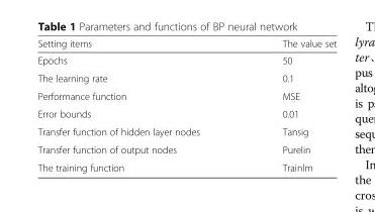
<table><thead><tr><td>Setting items</td><td>The value set</td></tr></thead><tbody><tr><td>Epochs</td><td>50</td></tr><tr><td>The learning rate</td><td>0.1</td></tr><tr><td>Performance function</td><td>MSE</td></tr><tr><td>Error bounds</td><td>0.01</td></tr><tr><td>Transfer function of hidden layer nodes</td><td>Tansig</td></tr><tr><td>Transfer function of output nodes</td><td>Purelin</td></tr><tr><td>The training function</td><td>Trainlm</td></tr></tbody></table>